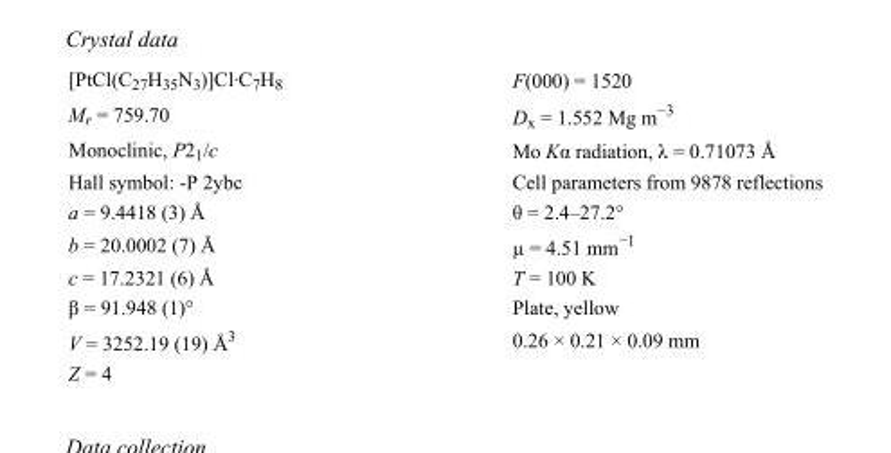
<table><tbody><tr><td>[PtCl(C<sub>27</sub>H<sub>35</sub>N<sub>3</sub>)]Cl·C<sub>7</sub>H<sub>8</sub></td><td>F(000) = 1520</td></tr><tr><td>M<sub>r</sub> = 759.70</td><td>D<sub>x</sub> = 1.552 Mg m<sup>−3</sup></td></tr><tr><td>Monoclinic, P2<sub>1</sub>/c</td><td>Mo Kα radiation, λ = 0.71073 Å</td></tr><tr><td>Hall symbol: -P 2ybc</td><td>Cell parameters from 9878 reflections</td></tr><tr><td>a = 9.4418 (3) Å</td><td>θ = 2.4–27.2°</td></tr><tr><td>b = 20.0002 (7) Å</td><td>µ = 4.51 mm<sup>−1</sup></td></tr><tr><td>c = 17.2321 (6) Å</td><td>T = 100 K</td></tr><tr><td>β = 91.948 (1)°</td><td>Plate, yellow</td></tr><tr><td>V = 3252.19 (19) Å<sup>3</sup></td><td>0.26 × 0.21 × 0.09 mm</td></tr><tr><td>Z = 4</td><td></td></tr></tbody></table>